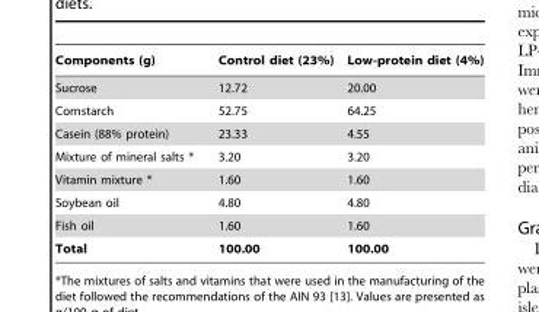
<table><thead><tr><td>Components (g)</td><td>Control diet (23%)</td><td>Low-protein diet (4%)</td></tr></thead><tbody><tr><td>Sucrose</td><td>12.72</td><td>20.00</td></tr><tr><td>Cornstarch</td><td>52.75</td><td>64.25</td></tr><tr><td>Casein (88% protein)</td><td>23.33</td><td>4.55</td></tr><tr><td>Mixture of mineral salts *</td><td>3.20</td><td>3.20</td></tr><tr><td>Vitamin mixture *</td><td>1.60</td><td>1.60</td></tr><tr><td>Soybean oil</td><td>4.80</td><td>4.80</td></tr><tr><td>Fish oil</td><td>1.60</td><td>1.60</td></tr><tr><td>Total</td><td>100.00</td><td>100.00</td></tr></tbody></table>